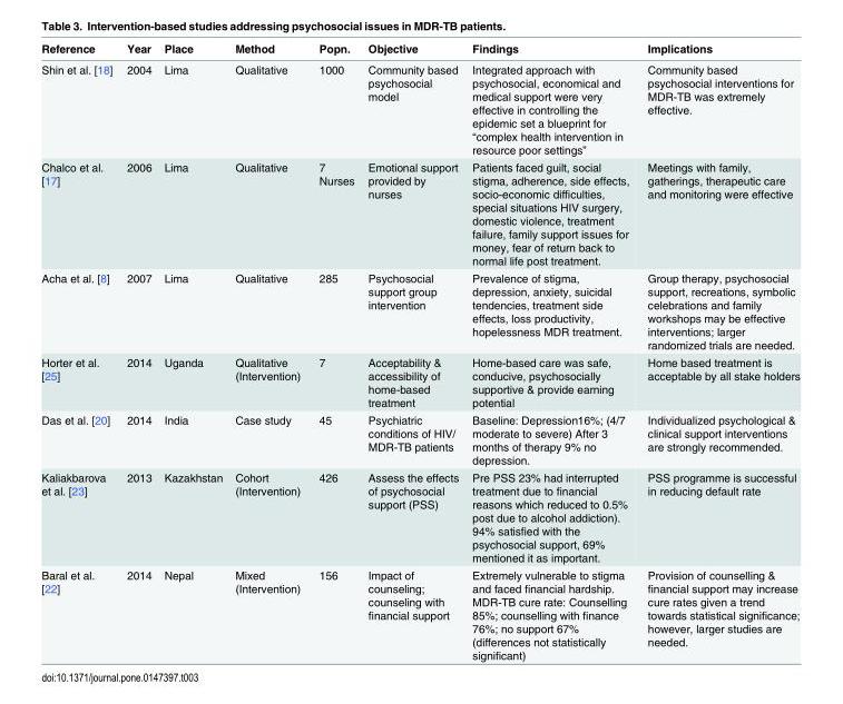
<table><thead><tr><td>Reference</td><td>Year</td><td>Place</td><td>Method</td><td>Popn.</td><td>Objective</td><td>Findings</td><td>Implications</td></tr></thead><tbody><tr><td>Shin et al. [18]</td><td>2004</td><td>Lima</td><td>Qualitative</td><td>1000</td><td>Community based psychosocial model</td><td>Integrated approach with psychosocial, economical and medical support were very effective in controlling the epidemic set a blueprint for “complex health intervention in resource poor settings”</td><td>Community based psychosocial interventions for MDR-TB was extremely effective.</td></tr><tr><td>Chalco et al. [17]</td><td>2006</td><td>Lima</td><td>Qualitative</td><td>7 Nurses</td><td>Emotional support provided by nurses</td><td>Patients faced guilt, social stigma, adherence, side effects, socio-economic difficulties, special situations HIV surgery, domestic violence, treatment failure, family support issues for money, fear of return back to normal life post treatment.</td><td>Meetings with family, gatherings, therapeutic care and monitoring were effective</td></tr><tr><td>Acha et al. [8]</td><td>2007</td><td>Lima</td><td>Qualitative</td><td>285</td><td>Psychosocial support group intervention</td><td>Prevalence of stigma, depression, anxiety, suicidal tendencies, treatment side effects, loss productivity, hopelessness MDR treatment.</td><td>Group therapy, psychosocial support, recreations, symbolic celebrations and family workshops may be effective interventions; larger randomized trials are needed.</td></tr><tr><td>Horter et al. [25]</td><td>2014</td><td>Uganda</td><td>Qualitative (Intervention)</td><td>7</td><td>Acceptability &amp; accessibility of home-based treatment</td><td>Home-based care was safe, conducive, psychosocially supportive &amp; provide earning potential</td><td>Home based treatment is acceptable by all stake holders</td></tr><tr><td>Das et al. [20]</td><td>2014</td><td>India</td><td>Case study</td><td>45</td><td>Psychiatric conditions of HIV/ MDR-TB patients</td><td>Baseline: Depression16%; (4/7 moderate to severe) After 3 months of therapy 9% no depression.</td><td>Individualized psychological &amp; clinical support interventions are strongly recommended.</td></tr><tr><td>Kaliakbarova et al. [23]</td><td>2013</td><td>Kazakhstan</td><td>Cohort (Intervention)</td><td>426</td><td>Assess the effects of psychosocial support (PSS)</td><td>Pre PSS 23% had interrupted treatment due to financial reasons which reduced to 0.5% post due to alcohol addiction). 94% satisfied with the psychosocial support, 69% mentioned it as important.</td><td>PSS programme is successful in reducing default rate</td></tr><tr><td>Baral et al. [22]</td><td>2014</td><td>Nepal</td><td>Mixed (Intervention)</td><td>156</td><td>Impact of counseling; counseling with financial support</td><td>Extremely vulnerable to stigma and faced financial hardship. MDR-TB cure rate: Counselling 85%; counselling with finance 76%; no support 67% (differences not statistically significant)</td><td>Provision of counselling &amp; financial support may increase cure rates given a trend towards statistical significance; however, larger studies are needed.</td></tr></tbody></table>